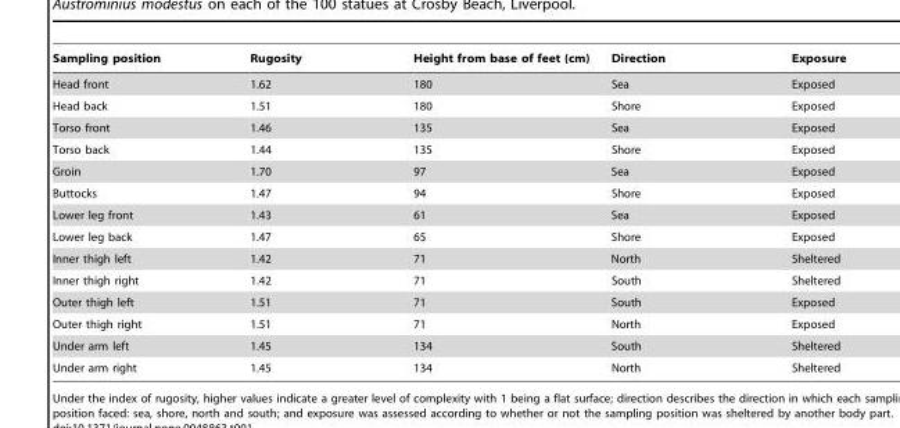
<table><thead><tr><td>Sampling position</td><td>Rugosity</td><td>Height from base of feet (cm)</td><td>Direction</td><td>Exposure</td></tr></thead><tbody><tr><td>Head front</td><td>1.62</td><td>180</td><td>Sea</td><td>Exposed</td></tr><tr><td>Head back</td><td>1.51</td><td>180</td><td>Shore</td><td>Exposed</td></tr><tr><td>Torso front</td><td>1.46</td><td>135</td><td>Sea</td><td>Exposed</td></tr><tr><td>Torso back</td><td>1.44</td><td>135</td><td>Shore</td><td>Exposed</td></tr><tr><td>Groin</td><td>1.70</td><td>97</td><td>Sea</td><td>Exposed</td></tr><tr><td>Buttocks</td><td>1.47</td><td>94</td><td>Shore</td><td>Exposed</td></tr><tr><td>Lower leg front</td><td>1.43</td><td>61</td><td>Sea</td><td>Exposed</td></tr><tr><td>Lower leg back</td><td>1.47</td><td>65</td><td>Shore</td><td>Exposed</td></tr><tr><td>Inner thigh left</td><td>1.42</td><td>71</td><td>North</td><td>Sheltered</td></tr><tr><td>Inner thigh right</td><td>1.42</td><td>71</td><td>South</td><td>Sheltered</td></tr><tr><td>Outer thigh left</td><td>1.51</td><td>71</td><td>South</td><td>Exposed</td></tr><tr><td>Outer thigh right</td><td>1.51</td><td>71</td><td>North</td><td>Exposed</td></tr><tr><td>Under arm left</td><td>1.45</td><td>134</td><td>South</td><td>Sheltered</td></tr><tr><td>Under arm right</td><td>1.45</td><td>134</td><td>North</td><td>Sheltered</td></tr></tbody></table>